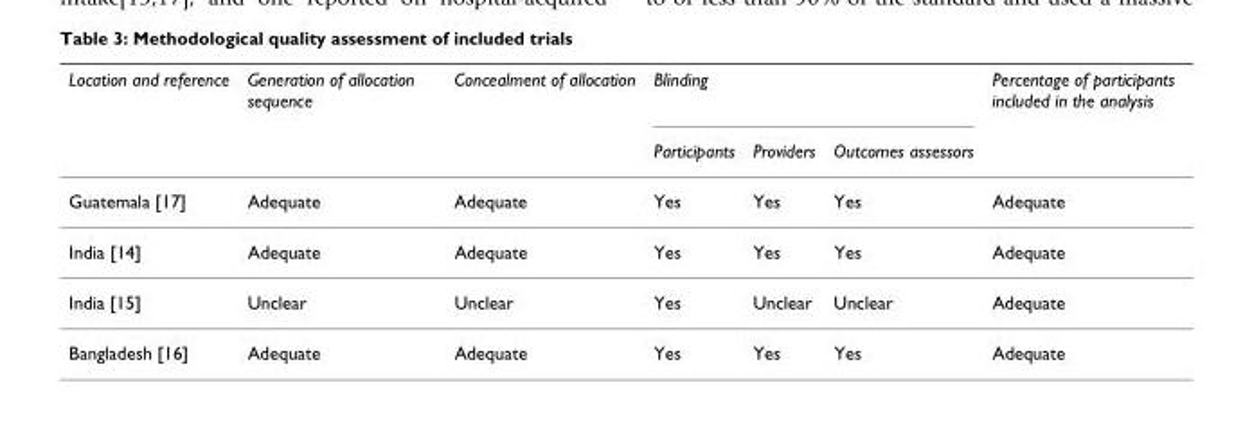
<table><thead><tr><td rowspan="2">Location and reference</td><td rowspan="2">Generation of allocation sequence</td><td rowspan="2">Concealment of allocation</td><td colspan="3">Blinding</td><td rowspan="2">Percentage of participants included in the analysis</td></tr><tr><td>Participants</td><td>Providers</td><td>Outcomes assessors</td></tr></thead><tbody><tr><td>Guatemala [17]</td><td>Adequate</td><td>Adequate</td><td>Yes</td><td>Yes</td><td>Yes</td><td>Adequate</td></tr><tr><td>India [14]</td><td>Adequate</td><td>Adequate</td><td>Yes</td><td>Yes</td><td>Yes</td><td>Adequate</td></tr><tr><td>India [15]</td><td>Unclear</td><td>Unclear</td><td>Yes</td><td>Unclear</td><td>Unclear</td><td>Adequate</td></tr><tr><td>Bangladesh [16]</td><td>Adequate</td><td>Adequate</td><td>Yes</td><td>Yes</td><td>Yes</td><td>Adequate</td></tr></tbody></table>